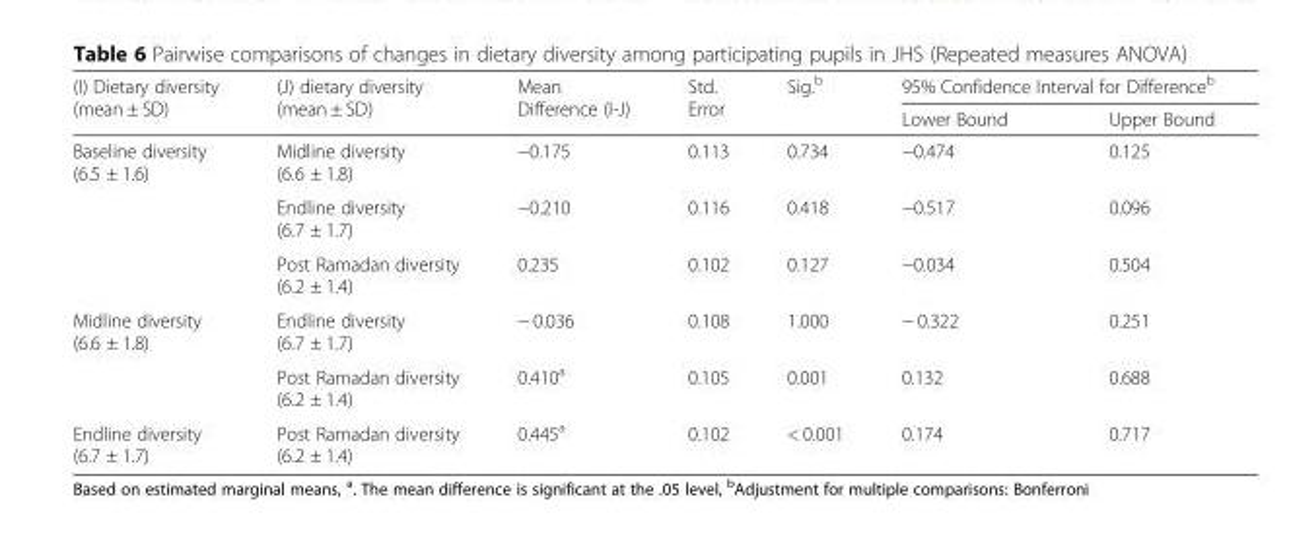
<table><thead><tr><td rowspan="2">(I) Dietary diversity (mean ± SD)</td><td rowspan="2">(J) dietary diversity (mean ± SD)</td><td rowspan="2">Mean Difference (I-J)</td><td rowspan="2">Std. Error</td><td rowspan="2">Sig.<sup>b</sup></td><td colspan="2">95% Confidence Interval for Difference<sup>b</sup></td></tr><tr><td>Lower Bound</td><td>Upper Bound</td></tr></thead><tbody><tr><td rowspan="3">Baseline diversity (6.5 ± 1.6)</td><td>Midline diversity (6.6 ± 1.8)</td><td>−0.175</td><td>0.113</td><td>0.734</td><td>−0.474</td><td>0.125</td></tr><tr><td>Endline diversity (6.7 ± 1.7)</td><td>−0.210</td><td>0.116</td><td>0.418</td><td>−0.517</td><td>0.096</td></tr><tr><td>Post Ramadan diversity (6.2 ± 1.4)</td><td>0.235</td><td>0.102</td><td>0.127</td><td>−0.034</td><td>0.504</td></tr><tr><td rowspan="2">Midline diversity (6.6 ± 1.8)</td><td>Endline diversity (6.7 ± 1.7)</td><td>− 0.036</td><td>0.108</td><td>1.000</td><td>− 0.322</td><td>0.251</td></tr><tr><td>Post Ramadan diversity (6.2 ± 1.4)</td><td>0.410<sup>a</sup></td><td>0.105</td><td>0.001</td><td>0.132</td><td>0.688</td></tr><tr><td>Endline diversity (6.7 ± 1.7)</td><td>Post Ramadan diversity (6.2 ± 1.4)</td><td>0.445<sup>a</sup></td><td>0.102</td><td>&lt; 0.001</td><td>0.174</td><td>0.717</td></tr></tbody></table>